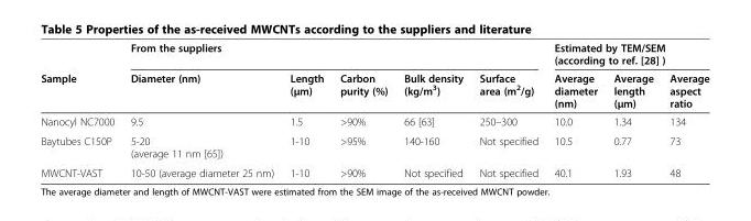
<table><thead><tr><td rowspan="2">Sample</td><td colspan="5">From the suppliers</td><td colspan="3">Estimated by TEM/SEM (according to ref. [28] )</td></tr><tr><td>Diameter (nm)</td><td>Length (μm)</td><td>Carbon purity (%)</td><td>Bulk density (kg/m<sup>3</sup>)</td><td>Surface area (m<sup>2</sup>/g)</td><td>Average diameter (nm)</td><td>Average length (μm)</td><td>Average aspect ratio</td></tr></thead><tbody><tr><td>Nanocyl NC7000</td><td>9.5</td><td>1.5</td><td>&gt;90%</td><td>66 [63]</td><td>250–300</td><td>10.0</td><td>1.34</td><td>134</td></tr><tr><td>Baytubes C150P</td><td>5-20 (average 11 nm [65])</td><td>1-10</td><td>&gt;95%</td><td>140-160</td><td>Not specified</td><td>10.5</td><td>0.77</td><td>73</td></tr><tr><td>MWCNT-VAST</td><td>10-50 (average diameter 25 nm)</td><td>1-10</td><td>&gt;90%</td><td>Not specified</td><td>Not specified</td><td>40.1</td><td>1.93</td><td>48</td></tr></tbody></table>